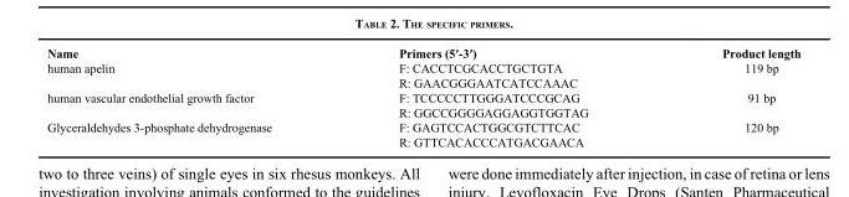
<table><thead><tr><td>Name</td><td>Primers (5′-3′)</td><td>Product length</td></tr></thead><tbody><tr><td rowspan="2">human apelin</td><td>F: CACCTCGCACCTGCTGTA</td><td>119 bp</td></tr><tr><td>R: GAACGGGAATCATCCAAAC</td><td></td></tr><tr><td rowspan="2">human vascular endothelial growth factor</td><td>F: TCCCCCTTGGGATCCCGCAG</td><td>91 bp</td></tr><tr><td>R: GGCCGGGGAGGAGGTGGTAG</td><td></td></tr><tr><td rowspan="2">Glyceraldehydes 3-phosphate dehydrogenase</td><td>F: GAGTCCACTGGCGTCTTCAC</td><td>120 bp</td></tr><tr><td>R: GTTCACACCCATGACGAACA</td><td></td></tr></tbody></table>